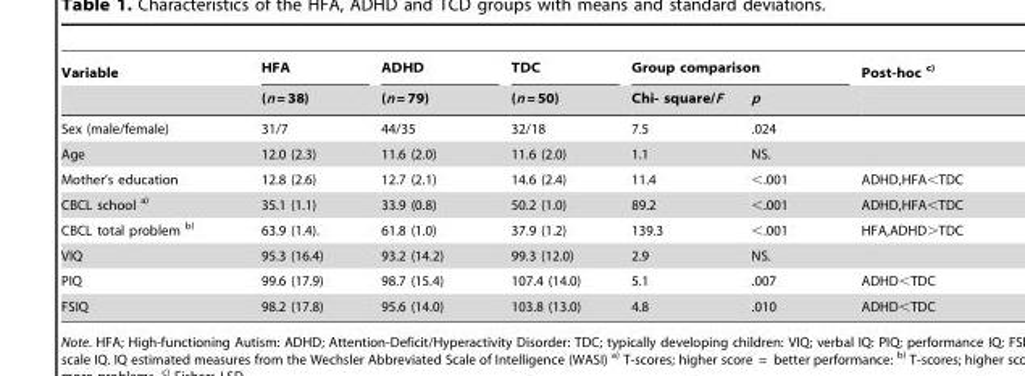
<table><thead><tr><td rowspan="2">Variable</td><td rowspan="2">HFA (n = 38)</td><td rowspan="2">ADHD (n = 79)</td><td rowspan="2">TDC (n = 50)</td><td colspan="2">Group comparison</td><td rowspan="2">Post-hoc <sup>c)</sup></td></tr><tr><td>Chi- square/F</td><td>p</td></tr></thead><tbody><tr><td>Sex (male/female)</td><td>31/7</td><td>44/35</td><td>32/18</td><td>7.5</td><td>.024</td><td></td></tr><tr><td>Age</td><td>12.0 (2.3)</td><td>11.6 (2.0)</td><td>11.6 (2.0)</td><td>1.1</td><td>NS.</td><td></td></tr><tr><td>Mother’s education</td><td>12.8 (2.6)</td><td>12.7 (2.1)</td><td>14.6 (2.4)</td><td>11.4</td><td>&lt;.001</td><td>ADHD,HFA&lt;TDC</td></tr><tr><td>CBCL school <sup>a)</sup></td><td>35.1 (1.1)</td><td>33.9 (0.8)</td><td>50.2 (1.0)</td><td>89.2</td><td>&lt;.001</td><td>ADHD,HFA&lt;TDC</td></tr><tr><td>CBCL total problem <sup>b)</sup></td><td>63.9 (1.4).</td><td>61.8 (1.0)</td><td>37.9 (1.2)</td><td>139.3</td><td>&lt;.001</td><td>HFA,ADHD&gt;TDC</td></tr><tr><td>VIQ</td><td>95.3 (16.4)</td><td>93.2 (14.2)</td><td>99.3 (12.0)</td><td>2.9</td><td>NS.</td><td></td></tr><tr><td>PIQ</td><td>99.6 (17.9)</td><td>98.7 (15.4)</td><td>107.4 (14.0)</td><td>5.1</td><td>.007</td><td>ADHD&lt;TDC</td></tr><tr><td>FSIQ</td><td>98.2 (17.8)</td><td>95.6 (14.0)</td><td>103.8 (13.0)</td><td>4.8</td><td>.010</td><td>ADHD&lt;TDC</td></tr></tbody></table>